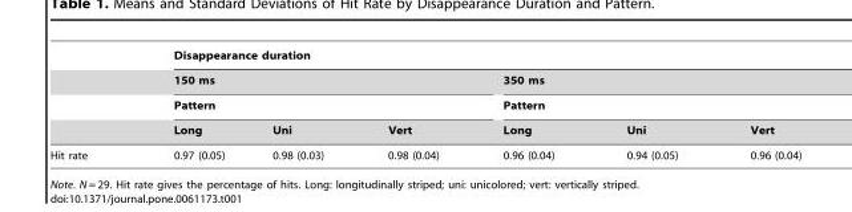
<table><thead><tr><td rowspan="4"></td><td colspan="6">Disappearance duration</td></tr><tr><td rowspan="2" colspan="3">150 ms Pattern</td><td rowspan="2" colspan="3">350 ms Pattern</td></tr><tr></tr><tr><td>Long</td><td>Uni</td><td>Vert</td><td>Long</td><td>Uni</td><td>Vert</td></tr></thead><tbody><tr><td>Hit rate</td><td>0.97 (0.05)</td><td>0.98 (0.03)</td><td>0.98 (0.04)</td><td>0.96 (0.04)</td><td>0.94 (0.05)</td><td>0.96 (0.04)</td></tr></tbody></table>